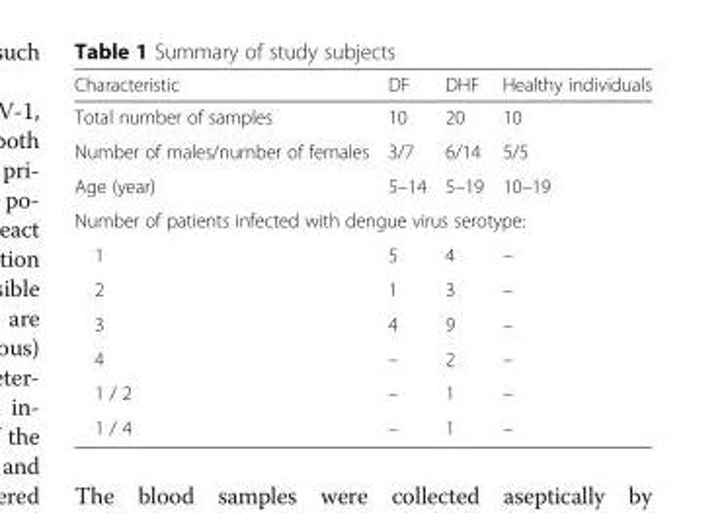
<table><thead><tr><td>Characteristic</td><td>DF</td><td>DHF</td><td>Healthy individuals</td></tr></thead><tbody><tr><td>Total number of samples</td><td>10</td><td>20</td><td>10</td></tr><tr><td>Number of males/number of females</td><td>3/7</td><td>6/14</td><td>5/5</td></tr><tr><td>Age (year)</td><td>5–14</td><td>5–19</td><td>10–19</td></tr><tr><td colspan="4">Number of patients infected with dengue virus serotype:</td></tr><tr><td>1</td><td>5</td><td>4</td><td>–</td></tr><tr><td>2</td><td>1</td><td>3</td><td>–</td></tr><tr><td>3</td><td>4</td><td>9</td><td>–</td></tr><tr><td>4</td><td>–</td><td>2</td><td>–</td></tr><tr><td>1 / 2</td><td>–</td><td>1</td><td>–</td></tr><tr><td>1 / 4</td><td>–</td><td>1</td><td>–</td></tr></tbody></table>